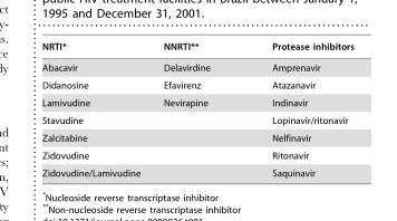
<table><thead><tr><td>NRTI*</td><td>NNRTI**</td><td>Protease inhibitors</td></tr></thead><tbody><tr><td>Abacavir</td><td>Delavirdine</td><td>Amprenavir</td></tr><tr><td>Didanosine</td><td>Efavirenz</td><td>Atazanavir</td></tr><tr><td>Lamivudine</td><td>Nevirapine</td><td>Indinavir</td></tr><tr><td>Stavudine</td><td></td><td>Lopinavir/ritonavir</td></tr><tr><td>Zalcitabine</td><td></td><td>Nelfinavir</td></tr><tr><td>Zidovudine</td><td></td><td>Ritonavir</td></tr><tr><td>Zidovudine/Lamivudine</td><td></td><td>Saquinavir</td></tr></tbody></table>